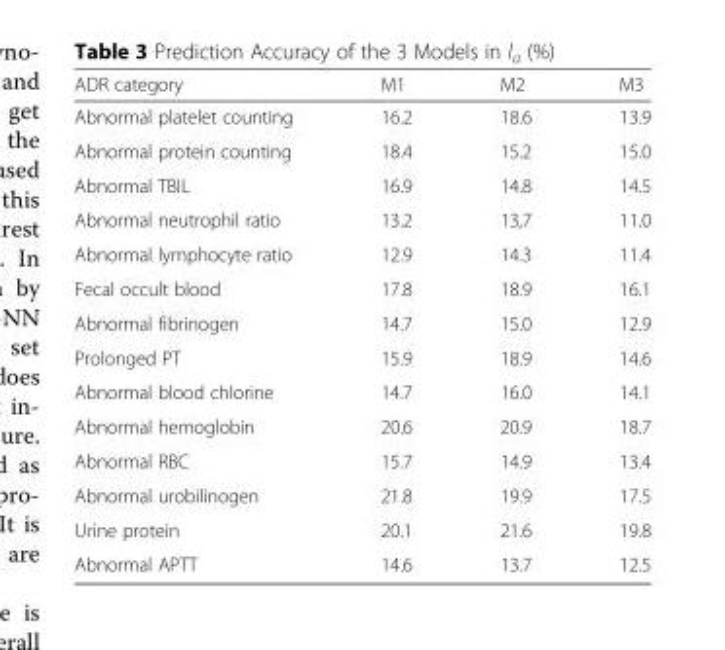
<table><thead><tr><td>ADR category</td><td>M1</td><td>M2</td><td>M3</td></tr></thead><tbody><tr><td>Abnormal platelet counting</td><td>16.2</td><td>18.6</td><td>13.9</td></tr><tr><td>Abnormal protein counting</td><td>18.4</td><td>15.2</td><td>15.0</td></tr><tr><td>Abnormal TBIL</td><td>16.9</td><td>14.8</td><td>14.5</td></tr><tr><td>Abnormal neutrophil ratio</td><td>13.2</td><td>13,7</td><td>11.0</td></tr><tr><td>Abnormal lymphocyte ratio</td><td>12.9</td><td>14.3</td><td>11.4</td></tr><tr><td>Fecal occult blood</td><td>17.8</td><td>18.9</td><td>16.1</td></tr><tr><td>Abnormal fibrinogen</td><td>14.7</td><td>15.0</td><td>12.9</td></tr><tr><td>Prolonged PT</td><td>15.9</td><td>18.9</td><td>14.6</td></tr><tr><td>Abnormal blood chlorine</td><td>14.7</td><td>16.0</td><td>14.1</td></tr><tr><td>Abnormal hemoglobin</td><td>20.6</td><td>20.9</td><td>18.7</td></tr><tr><td>Abnormal RBC</td><td>15.7</td><td>14.9</td><td>13.4</td></tr><tr><td>Abnormal urobilinogen</td><td>21.8</td><td>19.9</td><td>17.5</td></tr><tr><td>Urine protein</td><td>20.1</td><td>21.6</td><td>19.8</td></tr><tr><td>Abnormal APTT</td><td>14.6</td><td>13.7</td><td>12.5</td></tr></tbody></table>